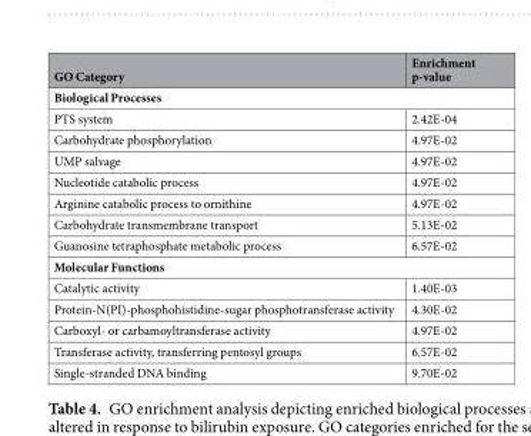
<table><thead><tr><td>GO Category</td><td>Enrichment p-value</td></tr></thead><tbody><tr><td colspan="2">Biological Processes</td></tr><tr><td>PTS system</td><td>2.42E-04</td></tr><tr><td>Carbohydrate phosphorylation</td><td>4.97E-02</td></tr><tr><td>UMP salvage</td><td>4.97E-02</td></tr><tr><td>Nucleotide catabolic process</td><td>4.97E-02</td></tr><tr><td>Arginine catabolic process to ornithine</td><td>4.97E-02</td></tr><tr><td>Carbohydrate transmembrane transport</td><td>5.13E-02</td></tr><tr><td>Guanosine tetraphosphate metabolic process</td><td>6.57E-02</td></tr><tr><td colspan="2">Molecular Functions</td></tr><tr><td>Catalytic activity</td><td>1.40E-03</td></tr><tr><td>Protein-N(PI)-phosphohistidine-sugar phosphotransferase activity</td><td>4.30E-02</td></tr><tr><td>Carboxyl- or carbamoyltransferase activity</td><td>4.97E-02</td></tr><tr><td>Transferase activity, transferring pentosyl groups</td><td>6.57E-02</td></tr><tr><td>Single-stranded DNA binding</td><td>9.70E-02</td></tr></tbody></table>